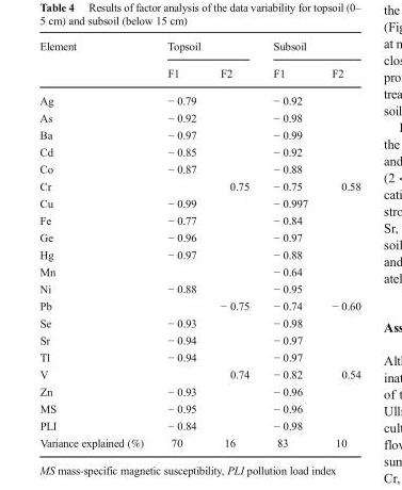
<table><thead><tr><td rowspan="2">Element</td><td colspan="2">Topsoil</td><td colspan="2">Subsoil</td></tr><tr><td>F1</td><td>F2</td><td>F1</td><td>F2</td></tr></thead><tbody><tr><td>Ag</td><td>− 0.79</td><td></td><td>− 0.92</td><td></td></tr><tr><td>As</td><td>− 0.92</td><td></td><td>− 0.98</td><td></td></tr><tr><td>Ba</td><td>− 0.97</td><td></td><td>− 0.99</td><td></td></tr><tr><td>Cd</td><td>− 0.85</td><td></td><td>− 0.92</td><td></td></tr><tr><td>Co</td><td>− 0.87</td><td></td><td>− 0.88</td><td></td></tr><tr><td>Cr</td><td></td><td>0.75</td><td>− 0.75</td><td>0.58</td></tr><tr><td>Cu</td><td>− 0.99</td><td></td><td>− 0.997</td><td></td></tr><tr><td>Fe</td><td>− 0.77</td><td></td><td>− 0.84</td><td></td></tr><tr><td>Ge</td><td>− 0.96</td><td></td><td>− 0.97</td><td></td></tr><tr><td>Hg</td><td>− 0.97</td><td></td><td>− 0.88</td><td></td></tr><tr><td>Mn</td><td></td><td></td><td>− 0.64</td><td></td></tr><tr><td>Ni</td><td>− 0.88</td><td></td><td>− 0.95</td><td></td></tr><tr><td>Pb</td><td></td><td>− 0.75</td><td>− 0.74</td><td>− 0.60</td></tr><tr><td>Se</td><td>− 0.93</td><td></td><td>− 0.98</td><td></td></tr><tr><td>Sr</td><td>− 0.94</td><td></td><td>− 0.97</td><td></td></tr><tr><td>Tl</td><td>− 0.94</td><td></td><td>− 0.97</td><td></td></tr><tr><td>V</td><td></td><td>0.74</td><td>− 0.82</td><td>0.54</td></tr><tr><td>Zn</td><td>− 0.93</td><td></td><td>− 0.96</td><td></td></tr><tr><td>MS</td><td>− 0.95</td><td></td><td>− 0.96</td><td></td></tr><tr><td>PLI</td><td>− 0.84</td><td></td><td>− 0.98</td><td></td></tr><tr><td>Variance explained (%)</td><td>70</td><td>16</td><td>83</td><td>10</td></tr></tbody></table>